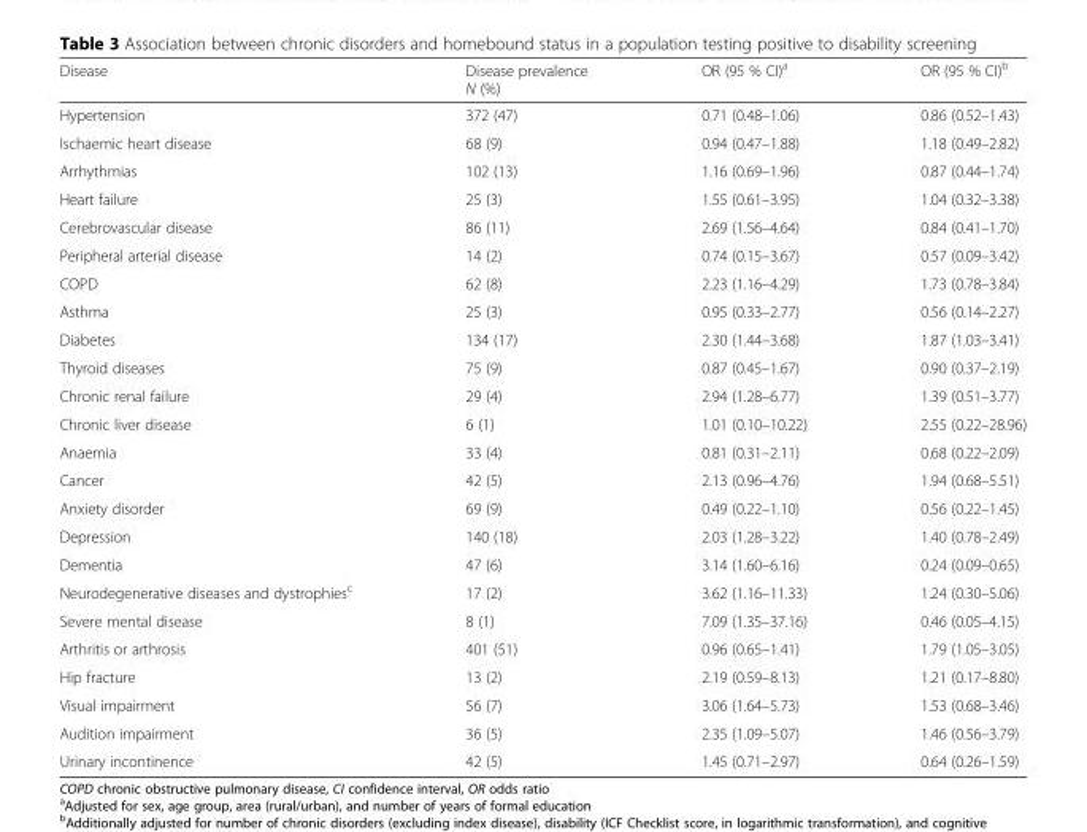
<table><thead><tr><td>Disease</td><td>Disease prevalence N (%)</td><td>OR (95 % CI)<sup>a</sup></td><td>OR (95 % CI)<sup>b</sup></td></tr></thead><tbody><tr><td>Hypertension</td><td>372 (47)</td><td>0.71 (0.48–1.06)</td><td>0.86 (0.52–1.43)</td></tr><tr><td>Ischaemic heart disease</td><td>68 (9)</td><td>0.94 (0.47–1.88)</td><td>1.18 (0.49–2.82)</td></tr><tr><td>Arrhythmias</td><td>102 (13)</td><td>1.16 (0.69–1.96)</td><td>0.87 (0.44–1.74)</td></tr><tr><td>Heart failure</td><td>25 (3)</td><td>1.55 (0.61–3.95)</td><td>1.04 (0.32–3.38)</td></tr><tr><td>Cerebrovascular disease</td><td>86 (11)</td><td>2.69 (1.56–4.64)</td><td>0.84 (0.41–1.70)</td></tr><tr><td>Peripheral arterial disease</td><td>14 (2)</td><td>0.74 (0.15–3.67)</td><td>0.57 (0.09–3.42)</td></tr><tr><td>COPD</td><td>62 (8)</td><td>2.23 (1.16–4.29)</td><td>1.73 (0.78–3.84)</td></tr><tr><td>Asthma</td><td>25 (3)</td><td>0.95 (0.33–2.77)</td><td>0.56 (0.14–2.27)</td></tr><tr><td>Diabetes</td><td>134 (17)</td><td>2.30 (1.44–3.68)</td><td>1.87 (1.03–3.41)</td></tr><tr><td>Thyroid diseases</td><td>75 (9)</td><td>0.87 (0.45–1.67)</td><td>0.90 (0.37–2.19)</td></tr><tr><td>Chronic renal failure</td><td>29 (4)</td><td>2.94 (1.28–6.77)</td><td>1.39 (0.51–3.77)</td></tr><tr><td>Chronic liver disease</td><td>6 (1)</td><td>1.01 (0.10–10.22)</td><td>2.55 (0.22–28.96)</td></tr><tr><td>Anaemia</td><td>33 (4)</td><td>0.81 (0.31–2.11)</td><td>0.68 (0.22–2.09)</td></tr><tr><td>Cancer</td><td>42 (5)</td><td>2.13 (0.96–4.76)</td><td>1.94 (0.68–5.51)</td></tr><tr><td>Anxiety disorder</td><td>69 (9)</td><td>0.49 (0.22–1.10)</td><td>0.56 (0.22–1.45)</td></tr><tr><td>Depression</td><td>140 (18)</td><td>2.03 (1.28–3.22)</td><td>1.40 (0.78–2.49)</td></tr><tr><td>Dementia</td><td>47 (6)</td><td>3.14 (1.60–6.16)</td><td>0.24 (0.09–0.65)</td></tr><tr><td>Neurodegenerative diseases and dystrophies<sup>c</sup></td><td>17 (2)</td><td>3.62 (1.16–11.33)</td><td>1.24 (0.30–5.06)</td></tr><tr><td>Severe mental disease</td><td>8 (1)</td><td>7.09 (1.35–37.16)</td><td>0.46 (0.05–4.15)</td></tr><tr><td>Arthritis or arthrosis</td><td>401 (51)</td><td>0.96 (0.65–1.41)</td><td>1.79 (1.05–3.05)</td></tr><tr><td>Hip fracture</td><td>13 (2)</td><td>2.19 (0.59–8.13)</td><td>1.21 (0.17–8.80)</td></tr><tr><td>Visual impairment</td><td>56 (7)</td><td>3.06 (1.64–5.73)</td><td>1.53 (0.68–3.46)</td></tr><tr><td>Audition impairment</td><td>36 (5)</td><td>2.35 (1.09–5.07)</td><td>1.46 (0.56–3.79)</td></tr><tr><td>Urinary incontinence</td><td>42 (5)</td><td>1.45 (0.71–2.97)</td><td>0.64 (0.26–1.59)</td></tr></tbody></table>